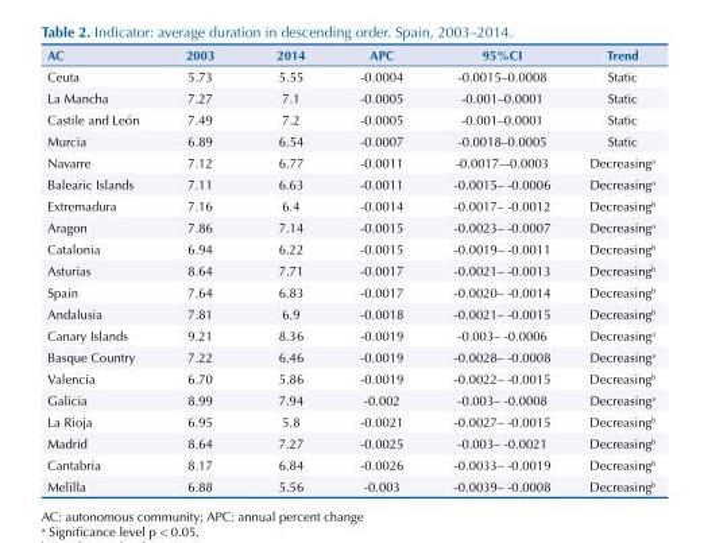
<table><thead><tr><td>AC</td><td>2003</td><td>2014</td><td>APC</td><td>95%CI</td><td>Trend</td></tr></thead><tbody><tr><td>Ceuta</td><td>5.73</td><td>5.55</td><td>-0.0004</td><td>-0.0015–0.0008</td><td>Static</td></tr><tr><td>La Mancha</td><td>7.27</td><td>7.1</td><td>-0.0005</td><td>-0.001–0.0001</td><td>Static</td></tr><tr><td>Castile and León</td><td>7.49</td><td>7.2</td><td>-0.0005</td><td>-0.001–0.0001</td><td>Static</td></tr><tr><td>Murcia</td><td>6.89</td><td>6.54</td><td>-0.0007</td><td>-0.0018–0.0005</td><td>Static</td></tr><tr><td>Navarre</td><td>7.12</td><td>6.77</td><td>-0.0011</td><td>-0.0017–-0.0003</td><td>Decreasing<sup>a</sup></td></tr><tr><td>Balearic Islands</td><td>7.11</td><td>6.63</td><td>-0.0011</td><td>-0.0015– -0.0006</td><td>Decreasing<sup>a</sup></td></tr><tr><td>Extremadura</td><td>7.16</td><td>6.4</td><td>-0.0014</td><td>-0.0017– -0.0012</td><td>Decreasing<sup>b</sup></td></tr><tr><td>Aragon</td><td>7.86</td><td>7.14</td><td>-0.0015</td><td>-0.0023– -0.0007</td><td>Decreasing<sup>a</sup></td></tr><tr><td>Catalonia</td><td>6.94</td><td>6.22</td><td>-0.0015</td><td>-0.0019– -0.0011</td><td>Decreasing<sup>b</sup></td></tr><tr><td>Asturias</td><td>8.64</td><td>7.71</td><td>-0.0017</td><td>-0.0021– -0.0013</td><td>Decreasing<sup>b</sup></td></tr><tr><td>Spain</td><td>7.64</td><td>6.83</td><td>-0.0017</td><td>-0.0020– -0.0014</td><td>Decreasing<sup>b</sup></td></tr><tr><td>Andalusia</td><td>7.81</td><td>6.9</td><td>-0.0018</td><td>-0.0021– -0.0015</td><td>Decreasing<sup>b</sup></td></tr><tr><td>Canary Islands</td><td>9.21</td><td>8.36</td><td>-0.0019</td><td>-0.003– -0.0006</td><td>Decreasing<sup>a</sup></td></tr><tr><td>Basque Country</td><td>7.22</td><td>6.46</td><td>-0.0019</td><td>-0.0028– -0.0008</td><td>Decreasing<sup>a</sup></td></tr><tr><td>Valencia</td><td>6.70</td><td>5.86</td><td>-0.0019</td><td>-0.0022– -0.0015</td><td>Decreasing<sup>b</sup></td></tr><tr><td>Galicia</td><td>8.99</td><td>7.94</td><td>-0.002</td><td>-0.003– -0.0008</td><td>Decreasing<sup>a</sup></td></tr><tr><td>La Rioja</td><td>6.95</td><td>5.8</td><td>-0.0021</td><td>-0.0027– -0.0015</td><td>Decreasing<sup>b</sup></td></tr><tr><td>Madrid</td><td>8.64</td><td>7.27</td><td>-0.0025</td><td>-0.003– -0.0021</td><td>Decreasing<sup>b</sup></td></tr><tr><td>Cantabria</td><td>8.17</td><td>6.84</td><td>-0.0026</td><td>-0.0033– -0.0019</td><td>Decreasing<sup>b</sup></td></tr><tr><td>Melilla</td><td>6.88</td><td>5.56</td><td>-0.003</td><td>-0.0039– -0.0008</td><td>Decreasing<sup>b</sup></td></tr></tbody></table>